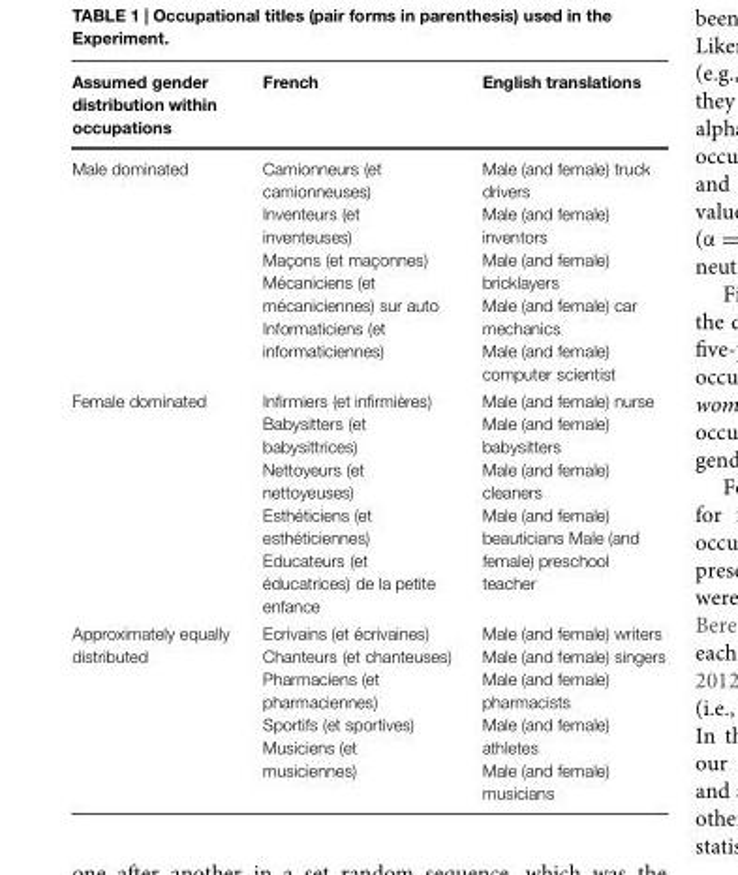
<table><thead><tr><td>Assumed gender distribution within occupations</td><td>French</td><td>English translations</td></tr></thead><tbody><tr><td>Male dominated</td><td>Camionneurs (et camionneuses) Inventeurs (et inventeuses) Maçons (et maçonnes) Mécaniciens (et mécaniciennes) sur auto Informaticiens (et informaticiennes)</td><td>Male (and female) truck drivers Male (and female) inventors Male (and female) bricklayers Male (and female) car mechanics Male (and female) computer scientist</td></tr><tr><td>Female dominated</td><td>Infirmiers (et infirmières) Babysitters (et babysittrices) Nettoyeurs (et nettoyeuses) Esthéticiens (et esthéticiennes) Educateurs (et éducatrices) de la petite enfance</td><td>Male (and female) nurse Male (and female) babysitters Male (and female) cleaners Male (and female) beauticians Male (and female) preschool teacher</td></tr><tr><td>Approximately equally distributed</td><td>Ecrivains (et écrivaines) Chanteurs (et chanteuses) Pharmaciens (et pharmaciennes) Sportifs (et sportives) Musiciens (et musiciennes)</td><td>Male (and female) writers Male (and female) singers Male (and female) pharmacists Male (and female) athletes Male (and female) musicians</td></tr></tbody></table>